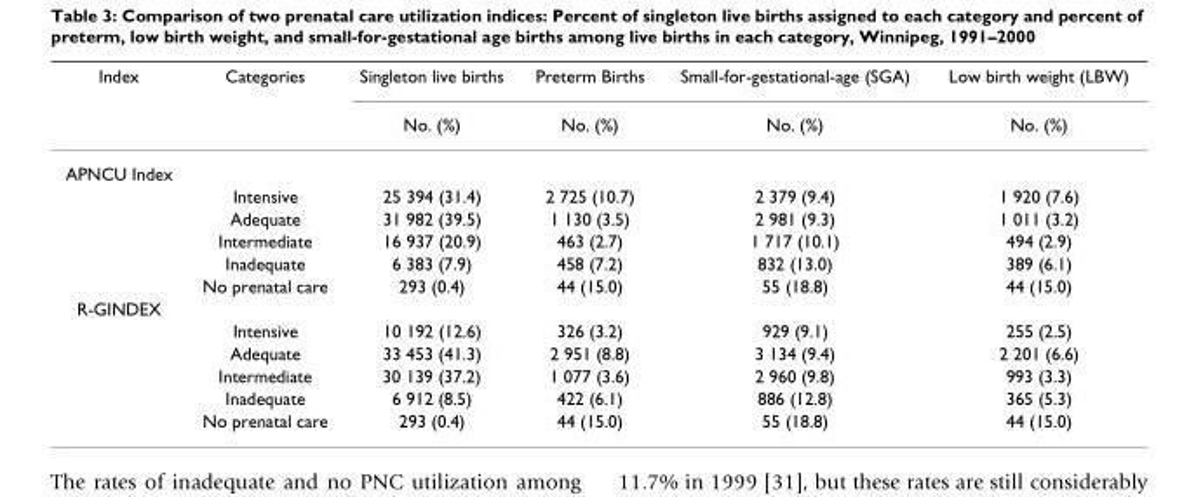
<table><thead><tr><td rowspan="2">Index</td><td rowspan="2">Categories</td><td rowspan="2">Singleton live births No. (%)</td><td rowspan="2">Preterm Births No. (%)</td><td rowspan="2">Small-for-gestational-age (SGA) No. (%)</td><td rowspan="2">Low birth weight (LBW) No. (%)</td></tr><tr></tr></thead><tbody><tr><td colspan="6">APNCU Index</td></tr><tr><td></td><td>Intensive</td><td>25 394 (31.4)</td><td>2 725 (10.7)</td><td>2 379 (9.4)</td><td>1 920 (7.6)</td></tr><tr><td></td><td>Adequate</td><td>31 982 (39.5)</td><td>1 130 (3.5)</td><td>2 981 (9.3)</td><td>1 011 (3.2)</td></tr><tr><td></td><td>Intermediate</td><td>16 937 (20.9)</td><td>463 (2.7)</td><td>1 717 (10.1)</td><td>494 (2.9)</td></tr><tr><td></td><td>Inadequate</td><td>6 383 (7.9)</td><td>458 (7.2)</td><td>832 (13.0)</td><td>389 (6.1)</td></tr><tr><td></td><td>No prenatal care</td><td>293 (0.4)</td><td>44 (15.0)</td><td>55 (18.8)</td><td>44 (15.0)</td></tr><tr><td colspan="6">R-GINDEX</td></tr><tr><td></td><td>Intensive</td><td>10 192 (12.6)</td><td>326 (3.2)</td><td>929 (9.1)</td><td>255 (2.5)</td></tr><tr><td></td><td>Adequate</td><td>33 453 (41.3)</td><td>2 951 (8.8)</td><td>3 134 (9.4)</td><td>2 201 (6.6)</td></tr><tr><td></td><td>Intermediate</td><td>30 139 (37.2)</td><td>1 077 (3.6)</td><td>2 960 (9.8)</td><td>993 (3.3)</td></tr><tr><td></td><td>Inadequate</td><td>6 912 (8.5)</td><td>422 (6.1)</td><td>886 (12.8)</td><td>365 (5.3)</td></tr><tr><td></td><td>No prenatal care</td><td>293 (0.4)</td><td>44 (15.0)</td><td>55 (18.8)</td><td>44 (15.0)</td></tr></tbody></table>